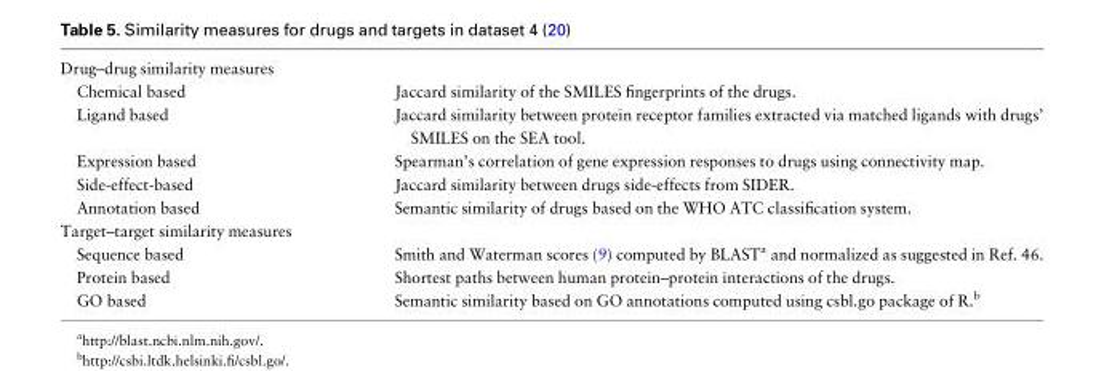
<table><tbody><tr><td colspan="2">Drug–drug similarity measures</td></tr><tr><td>Chemical based</td><td>Jaccard similarity of the SMILES fingerprints of the drugs.</td></tr><tr><td>Ligand based</td><td>Jaccard similarity between protein receptor families extracted via matched ligands with drugs’ SMILES on the SEA tool.</td></tr><tr><td>Expression based</td><td>Spearman’s correlation of gene expression responses to drugs using connectivity map.</td></tr><tr><td>Side-effect-based</td><td>Jaccard similarity between drugs side-effects from SIDER.</td></tr><tr><td>Annotation based</td><td>Semantic similarity of drugs based on the WHO ATC classification system.</td></tr><tr><td colspan="2">Target–target similarity measures</td></tr><tr><td>Sequence based</td><td>Smith and Waterman scores (9) computed by BLAST<sup>a</sup> and normalized as suggested in Ref. 46.</td></tr><tr><td>Protein based</td><td>Shortest paths between human protein–protein interactions of the drugs.</td></tr><tr><td>GO based</td><td>Semantic similarity based on GO annotations computed using csbl.go package of R.<sup>b</sup></td></tr></tbody></table>